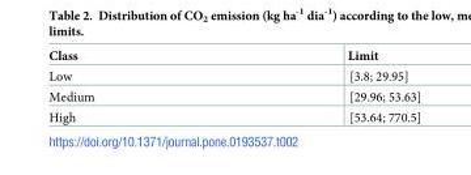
<table><thead><tr><td>Class</td><td>Limit</td></tr></thead><tbody><tr><td>Low</td><td>[3.8; 29.95]</td></tr><tr><td>Medium</td><td>[29.96; 53.63]</td></tr><tr><td>High</td><td>[53.64; 770.5]</td></tr></tbody></table>